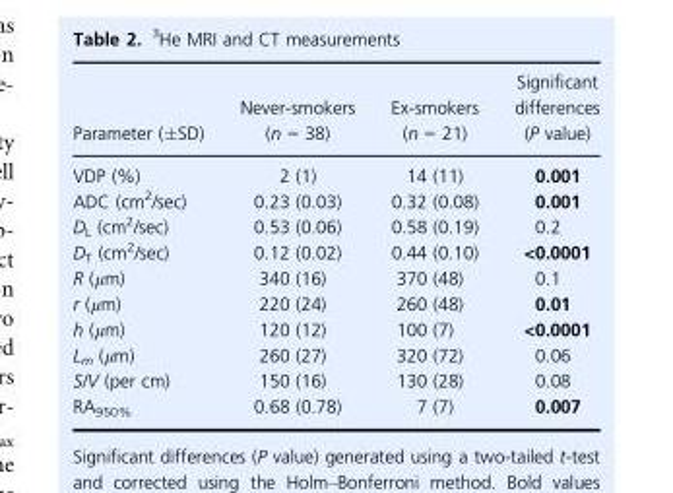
<table><thead><tr><td>Parameter (±SD)</td><td>Never-smokers (n = 38)</td><td>Ex-smokers (n = 21)</td><td>Significant differences (P value)</td></tr></thead><tbody><tr><td>VDP (%)</td><td>2 (1)</td><td>14 (11)</td><td>0.001</td></tr><tr><td>ADC (cm<sup>2</sup>/sec)</td><td>0.23 (0.03)</td><td>0.32 (0.08)</td><td>0.001</td></tr><tr><td>D<sub>L</sub> (cm<sup>2</sup>/sec)</td><td>0.53 (0.06)</td><td>0.58 (0.19)</td><td>0.2</td></tr><tr><td>D<sub>T</sub> (cm<sup>2</sup>/sec)</td><td>0.12 (0.02)</td><td>0.44 (0.10)</td><td>&lt;0.0001</td></tr><tr><td>R (μm)</td><td>340 (16)</td><td>370 (48)</td><td>0.1</td></tr><tr><td>r (μm)</td><td>220 (24)</td><td>260 (48)</td><td>0.01</td></tr><tr><td>h (μm)</td><td>120 (12)</td><td>100 (7)</td><td>&lt;0.0001</td></tr><tr><td>L<sub>m</sub> (μm)</td><td>260 (27)</td><td>320 (72)</td><td>0.06</td></tr><tr><td>S/V (per cm)</td><td>150 (16)</td><td>130 (28)</td><td>0.08</td></tr><tr><td>RA<sub>950%</sub></td><td>0.68 (0.78)</td><td>7 (7)</td><td>0.007</td></tr></tbody></table>